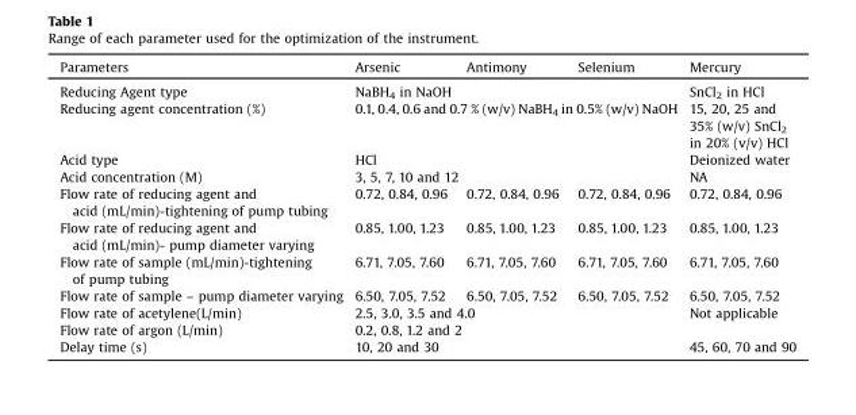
<table><thead><tr><td>Parameters</td><td>Arsenic</td><td>Antimony</td><td>Selenium</td><td>Mercury</td></tr></thead><tbody><tr><td>Reducing Agent type</td><td colspan="3">NaBH<sub>4</sub> in NaOH</td><td>SnCl<sub>2</sub> in HCl</td></tr><tr><td>Reducing agent concentration (%)</td><td colspan="3">0.1, 0.4, 0.6 and 0.7 % (w/v) NaBH<sub>4</sub> in 0.5% (w/v) NaOH</td><td>15, 20, 25 and 35% (w/v) SnCl<sub>2</sub> in 20% (v/v) HCl</td></tr><tr><td>Acid type</td><td colspan="3">HCl</td><td>Deionized water</td></tr><tr><td>Acid concentration (M)</td><td colspan="3">3, 5, 7, 10 and 12</td><td>NA</td></tr><tr><td>Flow rate of reducing agent and acid (mL/min)-tightening of pump tubing</td><td>0.72, 0.84, 0.96</td><td>0.72, 0.84, 0.96</td><td>0.72, 0.84, 0.96</td><td>0.72, 0.84, 0.96</td></tr><tr><td>Flow rate of reducing agent and acid (mL/min)- pump diameter varying</td><td>0.85, 1.00, 1.23</td><td>0.85, 1.00, 1.23</td><td>0.85, 1.00, 1.23</td><td>0.85, 1.00, 1.23</td></tr><tr><td>Flow rate of sample (mL/min)-tightening of pump tubing</td><td>6.71, 7.05, 7.60</td><td>6.71, 7.05, 7.60</td><td>6.71, 7.05, 7.60</td><td>6.71, 7.05, 7.60</td></tr><tr><td>Flow rate of sample – pump diameter varying</td><td>6.50, 7.05, 7.52</td><td>6.50, 7.05, 7.52</td><td>6.50, 7.05, 7.52</td><td>6.50, 7.05, 7.52</td></tr><tr><td>Flow rate of acetylene(L/min)</td><td colspan="3">2.5, 3.0, 3.5 and 4.0</td><td>Not applicable</td></tr><tr><td>Flow rate of argon (L/min)</td><td colspan="3">0.2, 0.8, 1.2 and 2</td><td></td></tr><tr><td>Delay time (s)</td><td colspan="3">10, 20 and 30</td><td>45, 60, 70 and 90</td></tr></tbody></table>